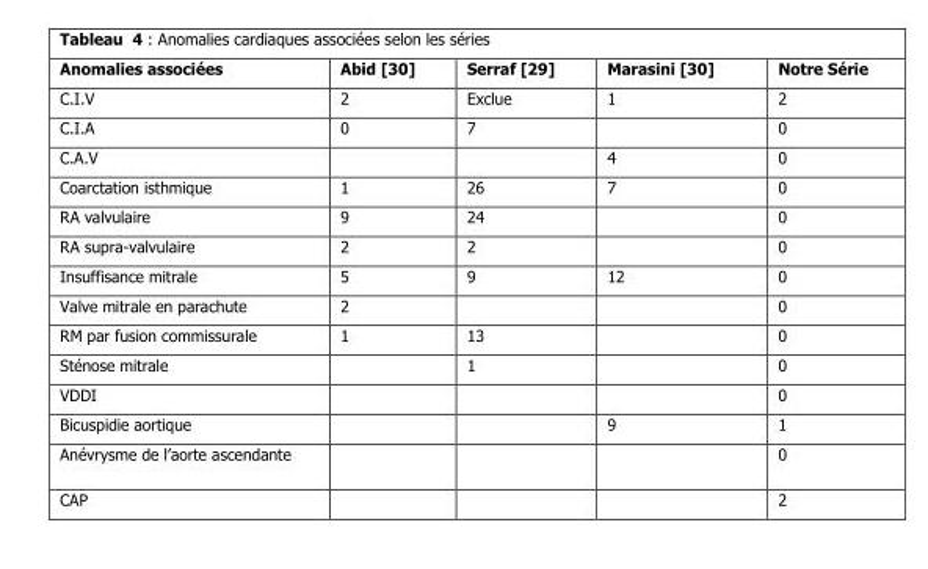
<table><thead><tr><td>Anomalies associées</td><td>Abid [30]</td><td>Serraf [29]</td><td>Marasini [30]</td><td>Notre Série</td></tr></thead><tbody><tr><td>C.I.V</td><td>2</td><td>Exclue</td><td>1</td><td>2</td></tr><tr><td>C.I.A</td><td>0</td><td>7</td><td></td><td>0</td></tr><tr><td>C.A.V</td><td></td><td></td><td>4</td><td>0</td></tr><tr><td>Coarctation isthmique</td><td>1</td><td>26</td><td>7</td><td>0</td></tr><tr><td>RA valvulaire</td><td>9</td><td>24</td><td></td><td>0</td></tr><tr><td>RA supra-valvulaire</td><td>2</td><td>2</td><td></td><td>0</td></tr><tr><td>Insuffisance mitrale</td><td>5</td><td>9</td><td>12</td><td>0</td></tr><tr><td>Valve mitrale en parachute</td><td>2</td><td></td><td></td><td>0</td></tr><tr><td>RM par fusion commissurale</td><td>1</td><td>13</td><td></td><td>0</td></tr><tr><td>Sténose mitrale</td><td></td><td>1</td><td></td><td>0</td></tr><tr><td>VDDI</td><td></td><td></td><td></td><td>0</td></tr><tr><td>Bicuspidie aortique</td><td></td><td></td><td>9</td><td>1</td></tr><tr><td>Anévrysme de l’aorte ascendante</td><td></td><td></td><td></td><td>0</td></tr><tr><td>CAP</td><td></td><td></td><td></td><td>2</td></tr></tbody></table>